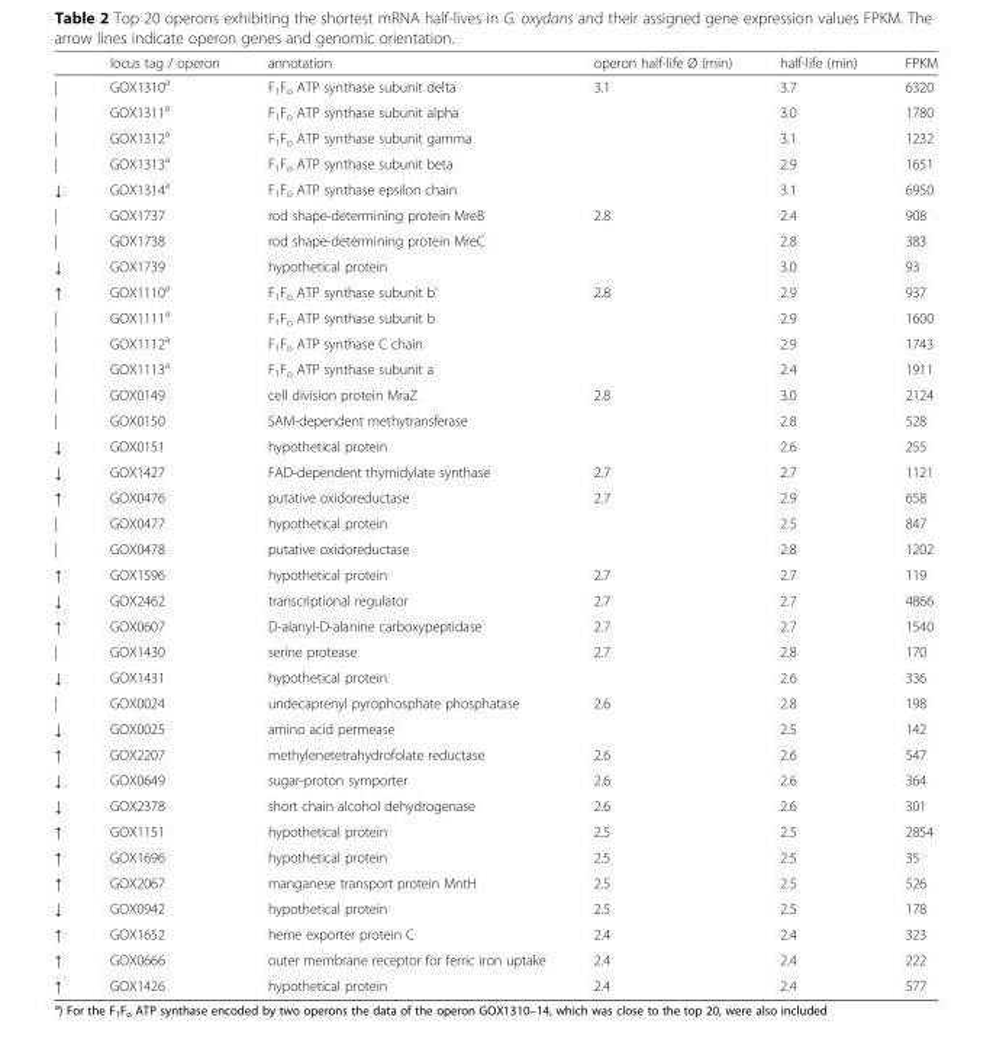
<table><thead><tr><td></td><td>locus tag / operon</td><td>annotation</td><td>operon half-life Ø (min)</td><td>half-life (min)</td><td>FPKM</td></tr></thead><tbody><tr><td>|</td><td>GOX1310<sup>a</sup></td><td>F<sub>1</sub>F<sub>o</sub> ATP synthase subunit delta</td><td>3.1</td><td>3.7</td><td>6320</td></tr><tr><td>|</td><td>GOX1311<sup>a</sup></td><td>F<sub>1</sub>F<sub>o</sub> ATP synthase subunit alpha</td><td></td><td>3.0</td><td>1780</td></tr><tr><td>|</td><td>GOX1312<sup>a</sup></td><td>F<sub>1</sub>F<sub>o</sub> ATP synthase subunit gamma</td><td></td><td>3.1</td><td>1232</td></tr><tr><td>|</td><td>GOX1313<sup>a</sup></td><td>F<sub>1</sub>F<sub>o</sub> ATP synthase subunit beta</td><td></td><td>2.9</td><td>1651</td></tr><tr><td>↓</td><td>GOX1314<sup>a</sup></td><td>F<sub>1</sub>F<sub>o</sub> ATP synthase epsilon chain</td><td></td><td>3.1</td><td>6950</td></tr><tr><td>|</td><td>GOX1737</td><td>rod shape-determining protein MreB</td><td>2.8</td><td>2.4</td><td>908</td></tr><tr><td>|</td><td>GOX1738</td><td>rod shape-determining protein MreC</td><td></td><td>2.8</td><td>383</td></tr><tr><td>↓</td><td>GOX1739</td><td>hypothetical protein</td><td></td><td>3.0</td><td>93</td></tr><tr><td>↑</td><td>GOX1110<sup>a</sup></td><td>F<sub>1</sub>F<sub>o</sub> ATP synthase subunit b’</td><td>2.8</td><td>2.9</td><td>937</td></tr><tr><td>|</td><td>GOX1111<sup>a</sup></td><td>F<sub>1</sub>F<sub>o</sub> ATP synthase subunit b</td><td></td><td>2.9</td><td>1600</td></tr><tr><td>|</td><td>GOX1112<sup>a</sup></td><td>F<sub>1</sub>F<sub>o</sub> ATP synthase C chain</td><td></td><td>2.9</td><td>1743</td></tr><tr><td>|</td><td>GOX1113<sup>a</sup></td><td>F<sub>1</sub>F<sub>o</sub> ATP synthase subunit a</td><td></td><td>2.4</td><td>1911</td></tr><tr><td>|</td><td>GOX0149</td><td>cell division protein MraZ</td><td>2.8</td><td>3.0</td><td>2124</td></tr><tr><td>|</td><td>GOX0150</td><td>SAM-dependent methytransferase</td><td></td><td>2.8</td><td>528</td></tr><tr><td>↓</td><td>GOX0151</td><td>hypothetical protein</td><td></td><td>2.6</td><td>255</td></tr><tr><td>↓</td><td>GOX1427</td><td>FAD-dependent thymidylate synthase</td><td>2.7</td><td>2.7</td><td>1121</td></tr><tr><td>↑</td><td>GOX0476</td><td>putative oxidoreductase</td><td>2.7</td><td>2.9</td><td>658</td></tr><tr><td>|</td><td>GOX0477</td><td>hypothetical protein</td><td></td><td>2.5</td><td>847</td></tr><tr><td>|</td><td>GOX0478</td><td>putative oxidoreductase</td><td></td><td>2.8</td><td>1202</td></tr><tr><td>↑</td><td>GOX1596</td><td>hypothetical protein</td><td>2.7</td><td>2.7</td><td>119</td></tr><tr><td>↓</td><td>GOX2462</td><td>transcriptional regulator</td><td>2.7</td><td>2.7</td><td>4866</td></tr><tr><td>↑</td><td>GOX0607</td><td>D-alanyl-D-alanine carboxypeptidase</td><td>2.7</td><td>2.7</td><td>1540</td></tr><tr><td>|</td><td>GOX1430</td><td>serine protease</td><td>2.7</td><td>2.8</td><td>170</td></tr><tr><td>↓</td><td>GOX1431</td><td>hypothetical protein</td><td></td><td>2.6</td><td>336</td></tr><tr><td>|</td><td>GOX0024</td><td>undecaprenyl pyrophosphate phosphatase</td><td>2.6</td><td>2.8</td><td>198</td></tr><tr><td>↓</td><td>GOX0025</td><td>amino acid permease</td><td></td><td>2.5</td><td>142</td></tr><tr><td>↑</td><td>GOX2207</td><td>methylenetetrahydrofolate reductase</td><td>2.6</td><td>2.6</td><td>547</td></tr><tr><td>↓</td><td>GOX0649</td><td>sugar-proton symporter</td><td>2.6</td><td>2.6</td><td>364</td></tr><tr><td>↓</td><td>GOX2378</td><td>short chain alcohol dehydrogenase</td><td>2.6</td><td>2.6</td><td>301</td></tr><tr><td>↑</td><td>GOX1151</td><td>hypothetical protein</td><td>2.5</td><td>2.5</td><td>2854</td></tr><tr><td>↑</td><td>GOX1696</td><td>hypothetical protein</td><td>2.5</td><td>2.5</td><td>35</td></tr><tr><td>↑</td><td>GOX2067</td><td>manganese transport protein MntH</td><td>2.5</td><td>2.5</td><td>526</td></tr><tr><td>↓</td><td>GOX0942</td><td>hypothetical protein</td><td>2.5</td><td>2.5</td><td>178</td></tr><tr><td>↑</td><td>GOX1652</td><td>heme exporter protein C</td><td>2.4</td><td>2.4</td><td>323</td></tr><tr><td>↑</td><td>GOX0666</td><td>outer membrane receptor for ferric iron uptake</td><td>2.4</td><td>2.4</td><td>222</td></tr><tr><td>↑</td><td>GOX1426</td><td>hypothetical protein</td><td>2.4</td><td>2.4</td><td>577</td></tr></tbody></table>